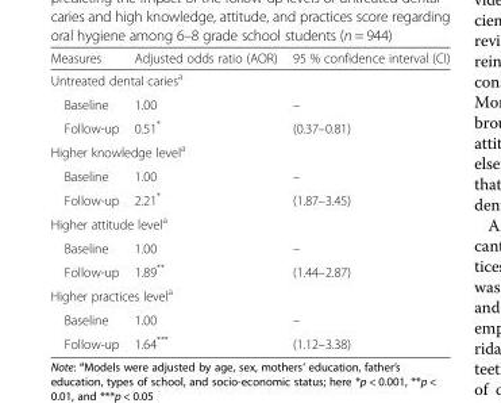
<table><thead><tr><td>Measures</td><td>Adjusted odds ratio (AOR)</td><td>95 % confidence interval (CI)</td></tr></thead><tbody><tr><td colspan="3">Untreated dental caries<sup>a</sup></td></tr><tr><td>Baseline</td><td>1.00</td><td>–</td></tr><tr><td>Follow-up</td><td>0.51*</td><td>(0.37–0.81)</td></tr><tr><td colspan="3">Higher knowledge level<sup>a</sup></td></tr><tr><td>Baseline</td><td>1.00</td><td>–</td></tr><tr><td>Follow-up</td><td>2.21*</td><td>(1.87–3.45)</td></tr><tr><td colspan="3">Higher attitude level<sup>a</sup></td></tr><tr><td>Baseline</td><td>1.00</td><td>–</td></tr><tr><td>Follow-up</td><td>1.89**</td><td>(1.44–2.87)</td></tr><tr><td colspan="3">Higher practices level<sup>a</sup></td></tr><tr><td>Baseline</td><td>1.00</td><td>–</td></tr><tr><td>Follow-up</td><td>1.64***</td><td>(1.12–3.38)</td></tr></tbody></table>